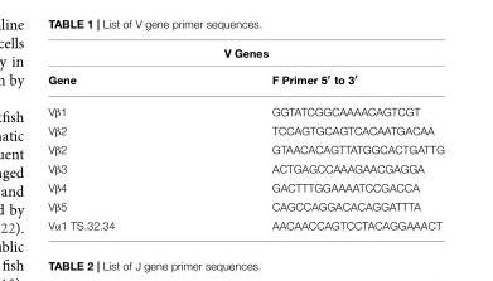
<table><thead><tr><td colspan="2">V Genes</td></tr><tr><td>Gene</td><td>F Primer 5′ to 3′</td></tr></thead><tbody><tr><td>Vβ1</td><td>GGTATCGGCAAAACAGTCGT</td></tr><tr><td>Vβ2</td><td>TCCAGTGCAGTCACAATGACAA</td></tr><tr><td>Vβ2</td><td>GTAACACAGTTATGGCACTGATTG</td></tr><tr><td>Vβ3</td><td>ACTGAGCCAAAGAACGAGGA</td></tr><tr><td>Vβ4</td><td>GACTTTGGAAAATCCGACCA</td></tr><tr><td>Vβ5</td><td>CAGCCAGGACACAGGATTTA</td></tr><tr><td>Vα1 TS.32.34</td><td>AACAACCAGTCCTACAGGAAACT</td></tr></tbody></table>